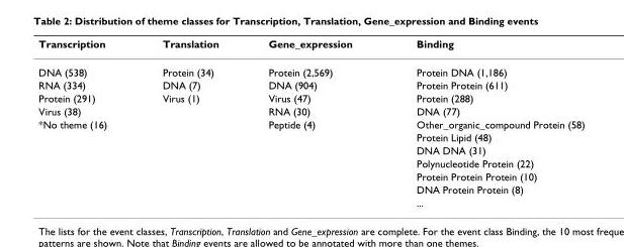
<table><thead><tr><td>Transcription</td><td>Translation</td><td>Gene_expression</td><td>Binding</td></tr></thead><tbody><tr><td>DNA (538)</td><td>Protein (34)</td><td>Protein (2,569)</td><td>Protein DNA (1,186)</td></tr><tr><td>RNA (334)</td><td>DNA (7)</td><td>DNA (904)</td><td>Protein Protein (611)</td></tr><tr><td>Protein (291)</td><td>Virus (1)</td><td>Virus (47)</td><td>Protein (288)</td></tr><tr><td>Virus (38)</td><td></td><td>RNA (30)</td><td>DNA (77)</td></tr><tr><td rowspan="7">*No theme (16)</td><td></td><td>Peptide (4)</td><td>Other_organic_compound Protein (58)</td></tr><tr><td></td><td></td><td>Protein Lipid (48)</td></tr><tr><td></td><td></td><td>DNA DNA (31)</td></tr><tr><td></td><td></td><td>Polynucleotide Protein (22)</td></tr><tr><td></td><td></td><td>Protein Protein Protein (10)</td></tr><tr><td></td><td></td><td>DNA Protein Protein (8)</td></tr><tr><td></td><td></td><td>...</td></tr></tbody></table>